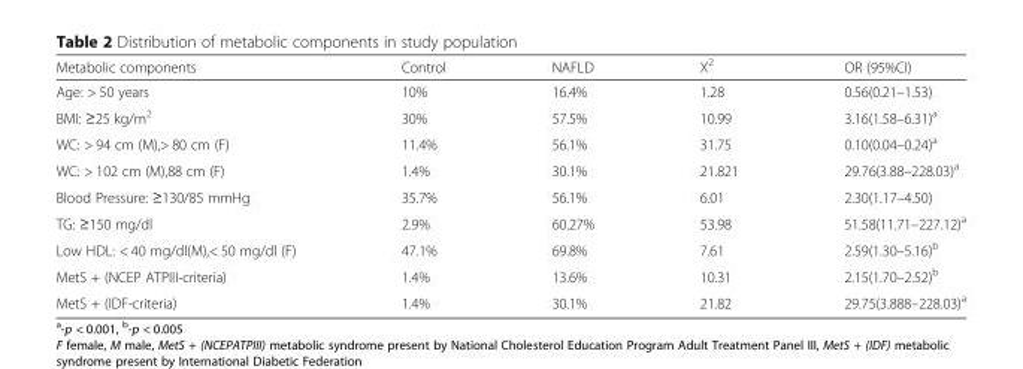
<table><thead><tr><td>Metabolic components</td><td>Control</td><td>NAFLD</td><td>X<sup>2</sup></td><td>OR (95%CI)</td></tr></thead><tbody><tr><td>Age: &gt; 50 years</td><td>10%</td><td>16.4%</td><td>1.28</td><td>0.56(0.21–1.53)</td></tr><tr><td>BMI: ≥25 kg/m<sup>2</sup></td><td>30%</td><td>57.5%</td><td>10.99</td><td>3.16(1.58–6.31)<sup>a</sup></td></tr><tr><td>WC: &gt; 94 cm (M),&gt; 80 cm (F)</td><td>11.4%</td><td>56.1%</td><td>31.75</td><td>0.10(0.04–0.24)<sup>a</sup></td></tr><tr><td>WC: &gt; 102 cm (M),88 cm (F)</td><td>1.4%</td><td>30.1%</td><td>21.821</td><td>29.76(3.88–228.03)<sup>a</sup></td></tr><tr><td>Blood Pressure: ≥130/85 mmHg</td><td>35.7%</td><td>56.1%</td><td>6.01</td><td>2.30(1.17–4.50)</td></tr><tr><td>TG: ≥150 mg/dl</td><td>2.9%</td><td>60.27%</td><td>53.98</td><td>51.58(11.71–227.12)<sup>a</sup></td></tr><tr><td>Low HDL: &lt; 40 mg/dl(M),&lt; 50 mg/dl (F)</td><td>47.1%</td><td>69.8%</td><td>7.61</td><td>2.59(1.30–5.16)<sup>b</sup></td></tr><tr><td>MetS + (NCEP ATPIII-criteria)</td><td>1.4%</td><td>13.6%</td><td>10.31</td><td>2.15(1.70–2.52)<sup>b</sup></td></tr><tr><td>MetS + (IDF-criteria)</td><td>1.4%</td><td>30.1%</td><td>21.82</td><td>29.75(3.888–228.03)<sup>a</sup></td></tr></tbody></table>